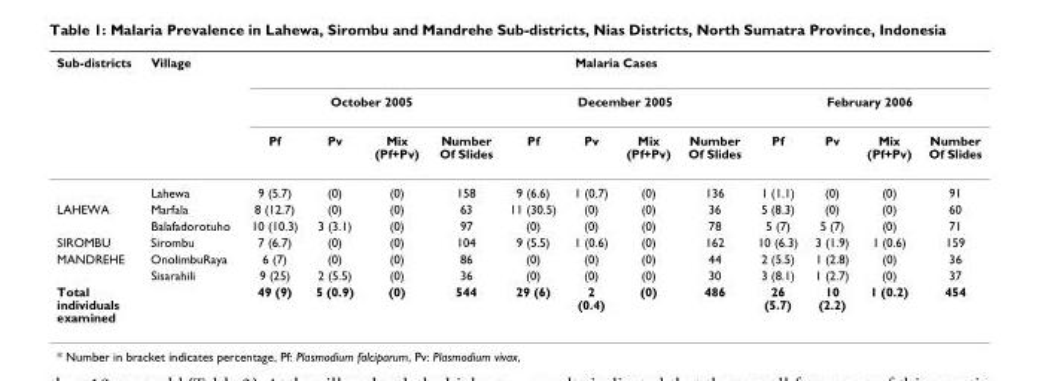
<table><thead><tr><td rowspan="3">Sub-districts</td><td rowspan="3">Village</td><td colspan="12">Malaria Cases</td></tr><tr><td colspan="4">October 2005</td><td colspan="4">December 2005</td><td colspan="4">February 2006</td></tr><tr><td>Pf</td><td>Pv</td><td>Mix (Pf+Pv)</td><td>Number Of Slides</td><td>Pf</td><td>Pv</td><td>Mix (Pf+Pv)</td><td>Number Of Slides</td><td>Pf</td><td>Pv</td><td>Mix (Pf+Pv)</td><td>Number Of Slides</td></tr></thead><tbody><tr><td></td><td>Lahewa</td><td>9 (5.7)</td><td>(0)</td><td>(0)</td><td>158</td><td>9 (6.6)</td><td>1 (0.7)</td><td>(0)</td><td>136</td><td>1 (1.1)</td><td>(0)</td><td>(0)</td><td>91</td></tr><tr><td rowspan="2">LAHEWA</td><td>Marfala</td><td>8 (12.7)</td><td>(0)</td><td>(0)</td><td>63</td><td>11 (30.5)</td><td>(0)</td><td>(0)</td><td>36</td><td>5 (8.3)</td><td>(0)</td><td>(0)</td><td>60</td></tr><tr><td>Balafadorotuho</td><td>10 (10.3)</td><td>3 (3.1)</td><td>(0)</td><td>97</td><td>(0)</td><td>(0)</td><td>(0)</td><td>78</td><td>5 (7)</td><td>5 (7)</td><td>(0)</td><td>71</td></tr><tr><td>SIROMBU</td><td>Sirombu</td><td>7 (6.7)</td><td>(0)</td><td>(0)</td><td>104</td><td>9 (5.5)</td><td>1 (0.6)</td><td>(0)</td><td>162</td><td>10 (6.3)</td><td>3 (1.9)</td><td>1 (0.6)</td><td>159</td></tr><tr><td rowspan="2">MANDREHE</td><td>OnolimbuRaya</td><td>6 (7)</td><td>(0)</td><td>(0)</td><td>86</td><td>(0)</td><td>(0)</td><td>(0)</td><td>44</td><td>2 (5.5)</td><td>1 (2.8)</td><td>(0)</td><td>36</td></tr><tr><td>Sisarahili</td><td>9 (25)</td><td>2 (5.5)</td><td>(0)</td><td>36</td><td>(0)</td><td>(0)</td><td>(0)</td><td>30</td><td>3 (8.1)</td><td>1 (2.7)</td><td>(0)</td><td>37</td></tr><tr><td>Total individuals examined</td><td></td><td>49 (9)</td><td>5 (0.9)</td><td>(0)</td><td>544</td><td>29 (6)</td><td>2 (0.4)</td><td>(0)</td><td>486</td><td>26 (5.7)</td><td>10 (2.2)</td><td>1 (0.2)</td><td>454</td></tr></tbody></table>